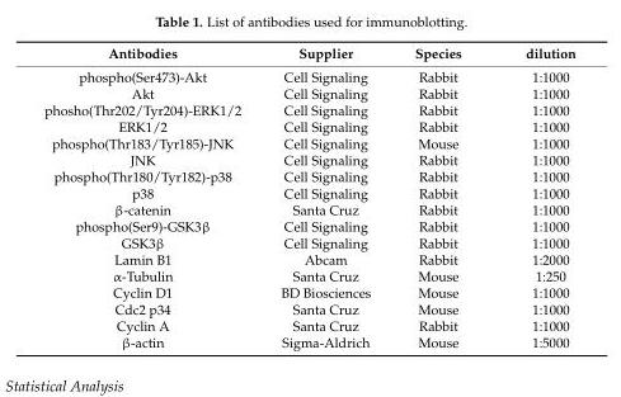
<table><thead><tr><td>Antibodies</td><td>Supplier</td><td>Species</td><td>dilution</td></tr></thead><tbody><tr><td>phospho(Ser473)-Akt</td><td>Cell Signaling</td><td>Rabbit</td><td>1:1000</td></tr><tr><td>Akt</td><td>Cell Signaling</td><td>Rabbit</td><td>1:1000</td></tr><tr><td>phosho(Thr202/Tyr204)-ERK1/2</td><td>Cell Signaling</td><td>Rabbit</td><td>1:1000</td></tr><tr><td>ERK1/2</td><td>Cell Signaling</td><td>Rabbit</td><td>1:1000</td></tr><tr><td>phospho(Thr183/Tyr185)-JNK</td><td>Cell Signaling</td><td>Mouse</td><td>1:1000</td></tr><tr><td>JNK</td><td>Cell Signaling</td><td>Rabbit</td><td>1:1000</td></tr><tr><td>phospho(Thr180/Tyr182)-p38</td><td>Cell Signaling</td><td>Rabbit</td><td>1:1000</td></tr><tr><td>p38</td><td>Cell Signaling</td><td>Rabbit</td><td>1:1000</td></tr><tr><td>β-catenin</td><td>Santa Cruz</td><td>Rabbit</td><td>1:1000</td></tr><tr><td>phospho(Ser9)-GSK3β</td><td>Cell Signaling</td><td>Rabbit</td><td>1:1000</td></tr><tr><td>GSK3β</td><td>Cell Signaling</td><td>Rabbit</td><td>1:1000</td></tr><tr><td>Lamin B1</td><td>Abcam</td><td>Rabbit</td><td>1:2000</td></tr><tr><td>α-Tubulin</td><td>Santa Cruz</td><td>Mouse</td><td>1:250</td></tr><tr><td>Cyclin D1</td><td>BD Biosciences</td><td>Mouse</td><td>1:1000</td></tr><tr><td>Cdc2 p34</td><td>Santa Cruz</td><td>Mouse</td><td>1:1000</td></tr><tr><td>Cyclin A</td><td>Santa Cruz</td><td>Rabbit</td><td>1:1000</td></tr><tr><td>β-actin</td><td>Sigma-Aldrich</td><td>Mouse</td><td>1:5000</td></tr></tbody></table>